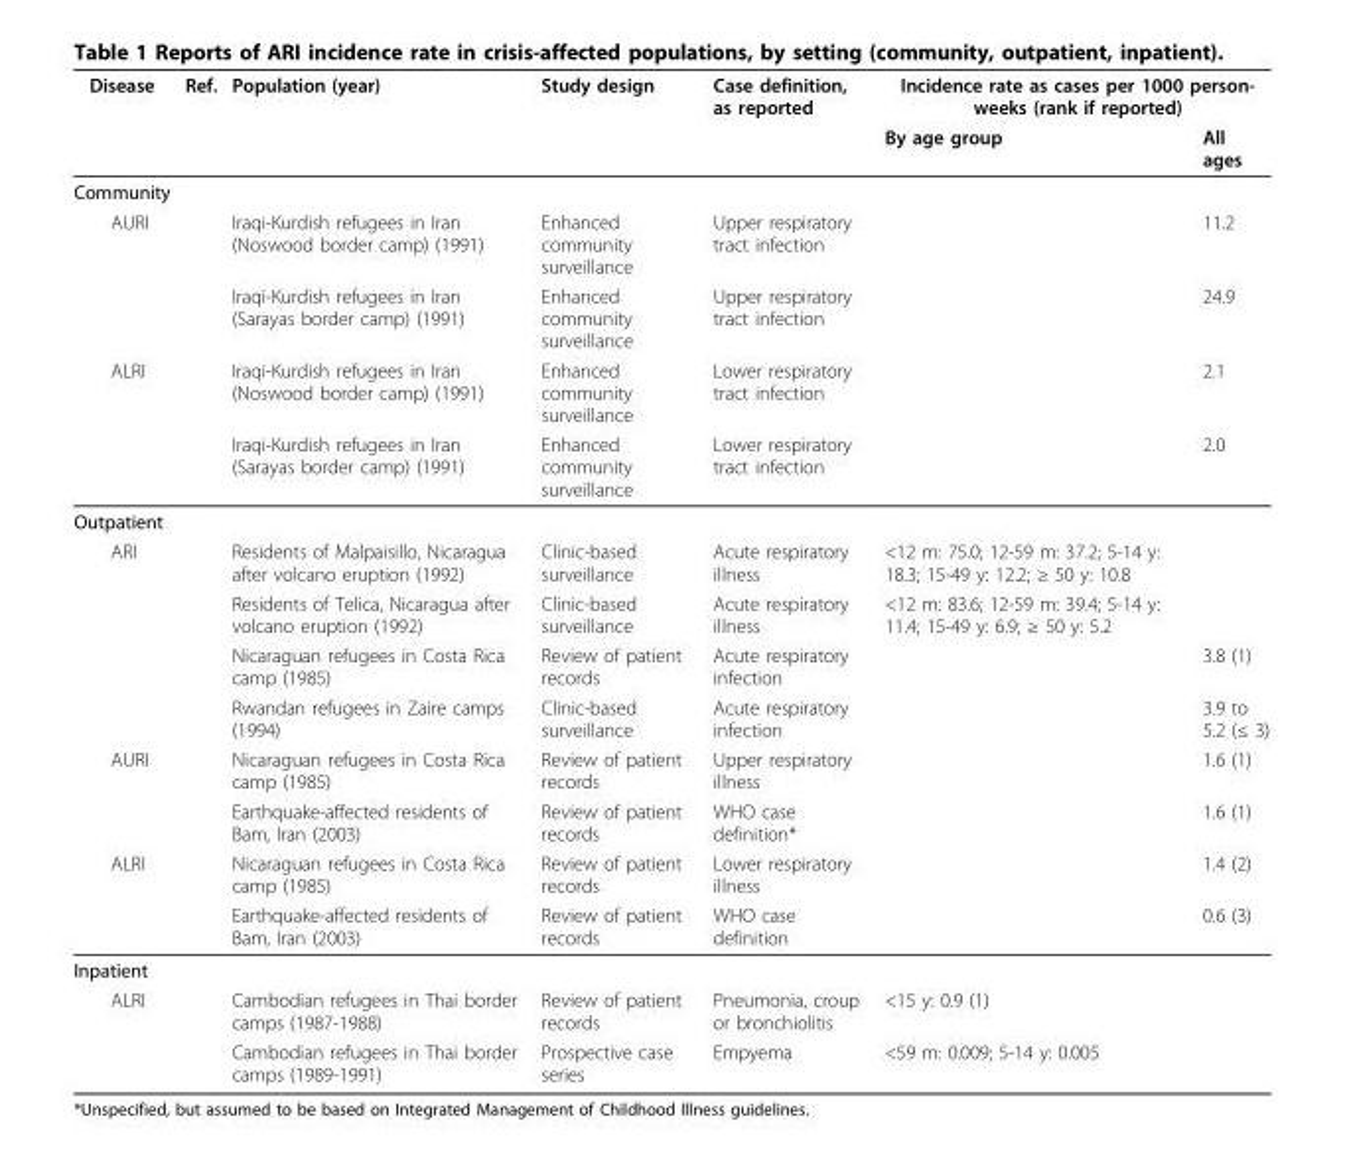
<table><tbody><tr><td rowspan="2">Disease</td><td>Ref.</td><td>Population (year)</td><td>Study design</td><td>Case definition, as reported</td><td colspan="2">Incidence rate as cases per 1000 person- weeks (rank if reported)</td></tr><tr><td></td><td></td><td></td><td></td><td>By age group</td><td>All ages</td></tr><tr><td colspan="7">Community</td></tr><tr><td rowspan="2">AURI</td><td></td><td>Iraqi-Kurdish refugees in Iran (Noswood border camp) (1991)</td><td>Enhanced community surveillance</td><td>Upper respiratory tract infection</td><td></td><td>11.2</td></tr><tr><td></td><td>Iraqi-Kurdish refugees in Iran (Sarayas border camp) (1991)</td><td>Enhanced community surveillance</td><td>Upper respiratory tract infection</td><td></td><td>24.9</td></tr><tr><td rowspan="2">ALRI</td><td></td><td>Iraqi-Kurdish refugees in Iran (Noswood border camp) (1991)</td><td>Enhanced community surveillance</td><td>Lower respiratory tract infection</td><td></td><td>2.1</td></tr><tr><td></td><td>Iraqi-Kurdish refugees in Iran (Sarayas border camp) (1991)</td><td>Enhanced community surveillance</td><td>Lower respiratory tract infection</td><td></td><td>2.0</td></tr><tr><td colspan="7">Outpatient</td></tr><tr><td rowspan="4">ARI</td><td></td><td>Residents of Malpaisillo, Nicaragua after volcano eruption (1992)</td><td>Clinic-based surveillance</td><td>Acute respiratory illness</td><td>&lt;12 m: 75.0; 12-59 m: 37.2; 5-14 y: 18.3; 15-49 y: 12.2; ≥ 50 y: 10.8</td><td></td></tr><tr><td></td><td>Residents of Telica, Nicaragua after volcano eruption (1992)</td><td>Clinic-based surveillance</td><td>Acute respiratory illness</td><td>&lt;12 m: 83.6; 12-59 m: 39.4; 5-14 y: 11.4; 15-49 y: 6.9; ≥ 50 y: 5.2</td><td></td></tr><tr><td></td><td>Nicaraguan refugees in Costa Rica camp (1985)</td><td>Review of patient records</td><td>Acute respiratory infection</td><td></td><td>3.8 (1)</td></tr><tr><td></td><td>Rwandan refugees in Zaire camps (1994)</td><td>Clinic-based surveillance</td><td>Acute respiratory infection</td><td></td><td>3.9 to 5.2 (≤ 3)</td></tr><tr><td rowspan="2">AURI</td><td></td><td>Nicaraguan refugees in Costa Rica camp (1985)</td><td>Review of patient records</td><td>Upper respiratory illness</td><td></td><td>1.6 (1)</td></tr><tr><td></td><td>Earthquake-affected residents of Bam, Iran (2003)</td><td>Review of patient records</td><td>WHO case definition*</td><td></td><td>1.6 (1)</td></tr><tr><td rowspan="2">ALRI</td><td></td><td>Nicaraguan refugees in Costa Rica camp (1985)</td><td>Review of patient records</td><td>Lower respiratory illness</td><td></td><td>1.4 (2)</td></tr><tr><td></td><td>Earthquake-affected residents of Bam, Iran (2003)</td><td>Review of patient records</td><td>WHO case definition</td><td></td><td>0.6 (3)</td></tr><tr><td colspan="7">Inpatient</td></tr><tr><td rowspan="2">ALRI</td><td></td><td>Cambodian refugees in Thai border camps (1987-1988)</td><td>Review of patient records</td><td>Pneumonia, croup or bronchiolitis</td><td>&lt;15 y: 0.9 (1)</td><td></td></tr><tr><td></td><td>Cambodian refugees in Thai border camps (1989-1991)</td><td>Prospective case series</td><td>Empyema</td><td>&lt;59 m: 0.009; 5-14 y: 0.005</td><td></td></tr></tbody></table>